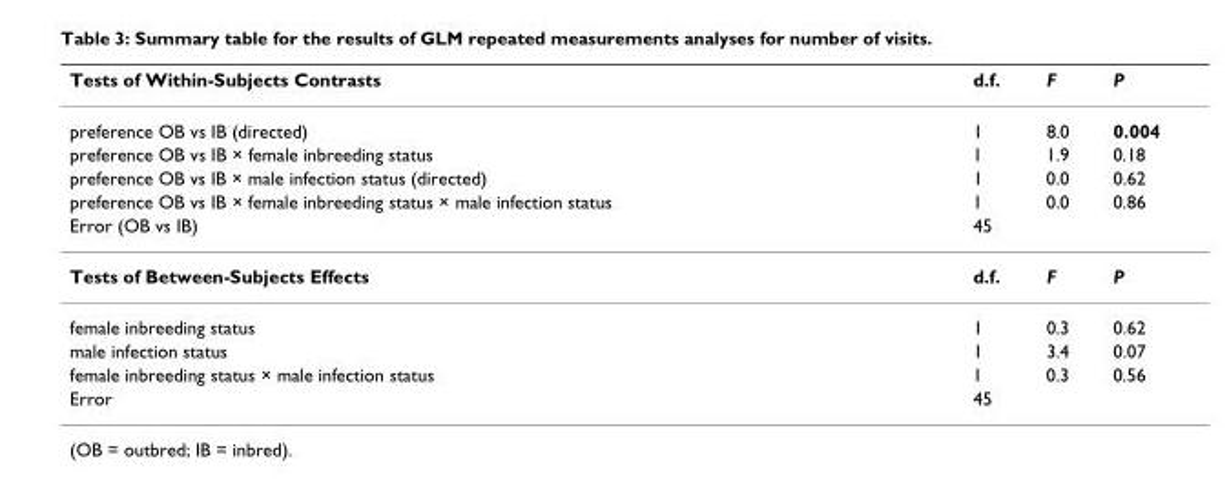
<table><thead><tr><td>Tests of Within-Subjects Contrasts</td><td>d.f.</td><td>F</td><td>P</td></tr></thead><tbody><tr><td>preference OB vs IB (directed)</td><td>1</td><td>8.0</td><td>0.004</td></tr><tr><td>preference OB vs IB × female inbreeding status</td><td>1</td><td>1.9</td><td>0.18</td></tr><tr><td>preference OB vs IB × male infection status (directed)</td><td>1</td><td>0.0</td><td>0.62</td></tr><tr><td>preference OB vs IB × female inbreeding status × male infection status</td><td>1</td><td>0.0</td><td>0.86</td></tr><tr><td>Error (OB vs IB)</td><td>45</td><td></td><td></td></tr><tr><td>Tests of Between-Subjects Effects</td><td>d.f.</td><td>F</td><td>P</td></tr><tr><td>female inbreeding status</td><td>1</td><td>0.3</td><td>0.62</td></tr><tr><td>male infection status</td><td>1</td><td>3.4</td><td>0.07</td></tr><tr><td>female inbreeding status × male infection status</td><td>1</td><td>0.3</td><td>0.56</td></tr><tr><td>Error</td><td>45</td><td></td><td></td></tr></tbody></table>